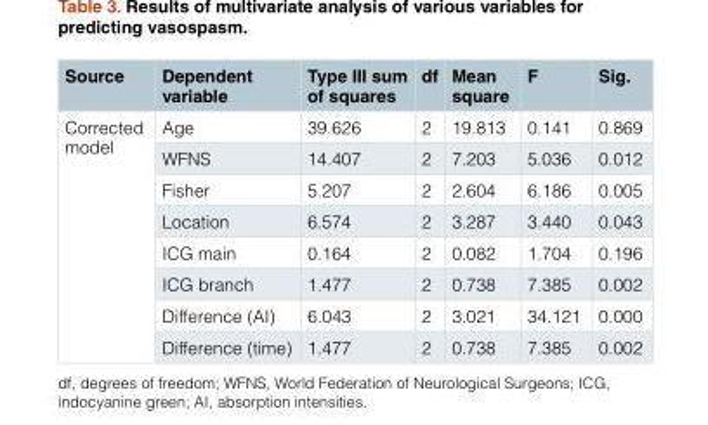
<table><thead><tr><td>Source</td><td>Dependent variable</td><td>Type III sum of squares</td><td>df</td><td>Mean square</td><td>F</td><td>Sig.</td></tr></thead><tbody><tr><td rowspan="8">Corrected model</td><td>Age</td><td>39.626</td><td>2</td><td>19.813</td><td>0.141</td><td>0.869</td></tr><tr><td>WFNS</td><td>14.407</td><td>2</td><td>7.203</td><td>5.036</td><td>0.012</td></tr><tr><td>Fisher</td><td>5.207</td><td>2</td><td>2.604</td><td>6.186</td><td>0.005</td></tr><tr><td>Location</td><td>6.574</td><td>2</td><td>3.287</td><td>3.440</td><td>0.043</td></tr><tr><td>ICG main</td><td>0.164</td><td>2</td><td>0.082</td><td>1.704</td><td>0.196</td></tr><tr><td>ICG branch</td><td>1.477</td><td>2</td><td>0.738</td><td>7.385</td><td>0.002</td></tr><tr><td>Difference (AI)</td><td>6.043</td><td>2</td><td>3.021</td><td>34.121</td><td>0.000</td></tr><tr><td>Difference (time)</td><td>1.477</td><td>2</td><td>0.738</td><td>7.385</td><td>0.002</td></tr></tbody></table>